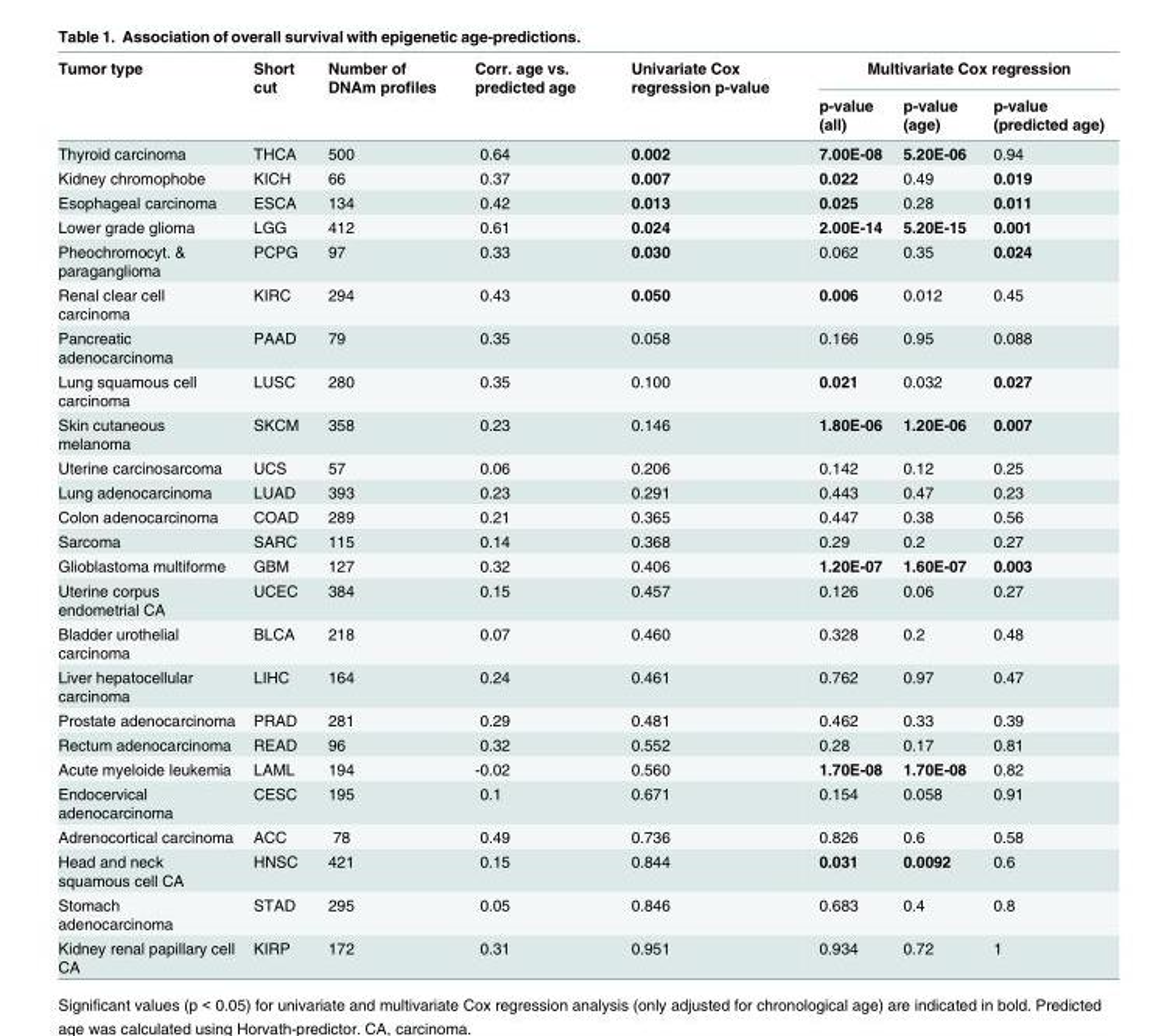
<table><thead><tr><td rowspan="2">Tumor type</td><td rowspan="2">Short cut</td><td rowspan="2">Number of DNAm profiles</td><td rowspan="2">Corr. age vs. predicted age</td><td rowspan="2">Univariate Cox regression p-value</td><td colspan="3">Multivariate Cox regression</td></tr><tr><td>p-value (all)</td><td>p-value (age)</td><td>p-value (predicted age)</td></tr></thead><tbody><tr><td>Thyroid carcinoma</td><td>THCA</td><td>500</td><td>0.64</td><td>0.002</td><td>7.00E-08</td><td>5.20E-06</td><td>0.94</td></tr><tr><td>Kidney chromophobe</td><td>KICH</td><td>66</td><td>0.37</td><td>0.007</td><td>0.022</td><td>0.49</td><td>0.019</td></tr><tr><td>Esophageal carcinoma</td><td>ESCA</td><td>134</td><td>0.42</td><td>0.013</td><td>0.025</td><td>0.28</td><td>0.011</td></tr><tr><td>Lower grade glioma</td><td>LGG</td><td>412</td><td>0.61</td><td>0.024</td><td>2.00E-14</td><td>5.20E-15</td><td>0.001</td></tr><tr><td>Pheochromocyt. &amp; paraganglioma</td><td>PCPG</td><td>97</td><td>0.33</td><td>0.030</td><td>0.062</td><td>0.35</td><td>0.024</td></tr><tr><td>Renal clear cell carcinoma</td><td>KIRC</td><td>294</td><td>0.43</td><td>0.050</td><td>0.006</td><td>0.012</td><td>0.45</td></tr><tr><td>Pancreatic adenocarcinoma</td><td>PAAD</td><td>79</td><td>0.35</td><td>0.058</td><td>0.166</td><td>0.95</td><td>0.088</td></tr><tr><td>Lung squamous cell carcinoma</td><td>LUSC</td><td>280</td><td>0.35</td><td>0.100</td><td>0.021</td><td>0.032</td><td>0.027</td></tr><tr><td>Skin cutaneous melanoma</td><td>SKCM</td><td>358</td><td>0.23</td><td>0.146</td><td>1.80E-06</td><td>1.20E-06</td><td>0.007</td></tr><tr><td>Uterine carcinosarcoma</td><td>UCS</td><td>57</td><td>0.06</td><td>0.206</td><td>0.142</td><td>0.12</td><td>0.25</td></tr><tr><td>Lung adenocarcinoma</td><td>LUAD</td><td>393</td><td>0.23</td><td>0.291</td><td>0.443</td><td>0.47</td><td>0.23</td></tr><tr><td>Colon adenocarcinoma</td><td>COAD</td><td>289</td><td>0.21</td><td>0.365</td><td>0.447</td><td>0.38</td><td>0.56</td></tr><tr><td>Sarcoma</td><td>SARC</td><td>115</td><td>0.14</td><td>0.368</td><td>0.29</td><td>0.2</td><td>0.27</td></tr><tr><td>Glioblastoma multiforme</td><td>GBM</td><td>127</td><td>0.32</td><td>0.406</td><td>1.20E-07</td><td>1.60E-07</td><td>0.003</td></tr><tr><td>Uterine corpus endometrial CA</td><td>UCEC</td><td>384</td><td>0.15</td><td>0.457</td><td>0.126</td><td>0.06</td><td>0.27</td></tr><tr><td>Bladder urothelial carcinoma</td><td>BLCA</td><td>218</td><td>0.07</td><td>0.460</td><td>0.328</td><td>0.2</td><td>0.48</td></tr><tr><td>Liver hepatocellular carcinoma</td><td>LIHC</td><td>164</td><td>0.24</td><td>0.461</td><td>0.762</td><td>0.97</td><td>0.47</td></tr><tr><td>Prostate adenocarcinoma</td><td>PRAD</td><td>281</td><td>0.29</td><td>0.481</td><td>0.462</td><td>0.33</td><td>0.39</td></tr><tr><td>Rectum adenocarcinoma</td><td>READ</td><td>96</td><td>0.32</td><td>0.552</td><td>0.28</td><td>0.17</td><td>0.81</td></tr><tr><td>Acute myeloide leukemia</td><td>LAML</td><td>194</td><td>-0.02</td><td>0.560</td><td>1.70E-08</td><td>1.70E-08</td><td>0.82</td></tr><tr><td>Endocervical adenocarcinoma</td><td>CESC</td><td>195</td><td>0.1</td><td>0.671</td><td>0.154</td><td>0.058</td><td>0.91</td></tr><tr><td>Adrenocortical carcinoma</td><td>ACC</td><td>78</td><td>0.49</td><td>0.736</td><td>0.826</td><td>0.6</td><td>0.58</td></tr><tr><td>Head and neck squamous cell CA</td><td>HNSC</td><td>421</td><td>0.15</td><td>0.844</td><td>0.031</td><td>0.0092</td><td>0.6</td></tr><tr><td>Stomach adenocarcinoma</td><td>STAD</td><td>295</td><td>0.05</td><td>0.846</td><td>0.683</td><td>0.4</td><td>0.8</td></tr><tr><td>Kidney renal papillary cell CA</td><td>KIRP</td><td>172</td><td>0.31</td><td>0.951</td><td>0.934</td><td>0.72</td><td>1</td></tr></tbody></table>